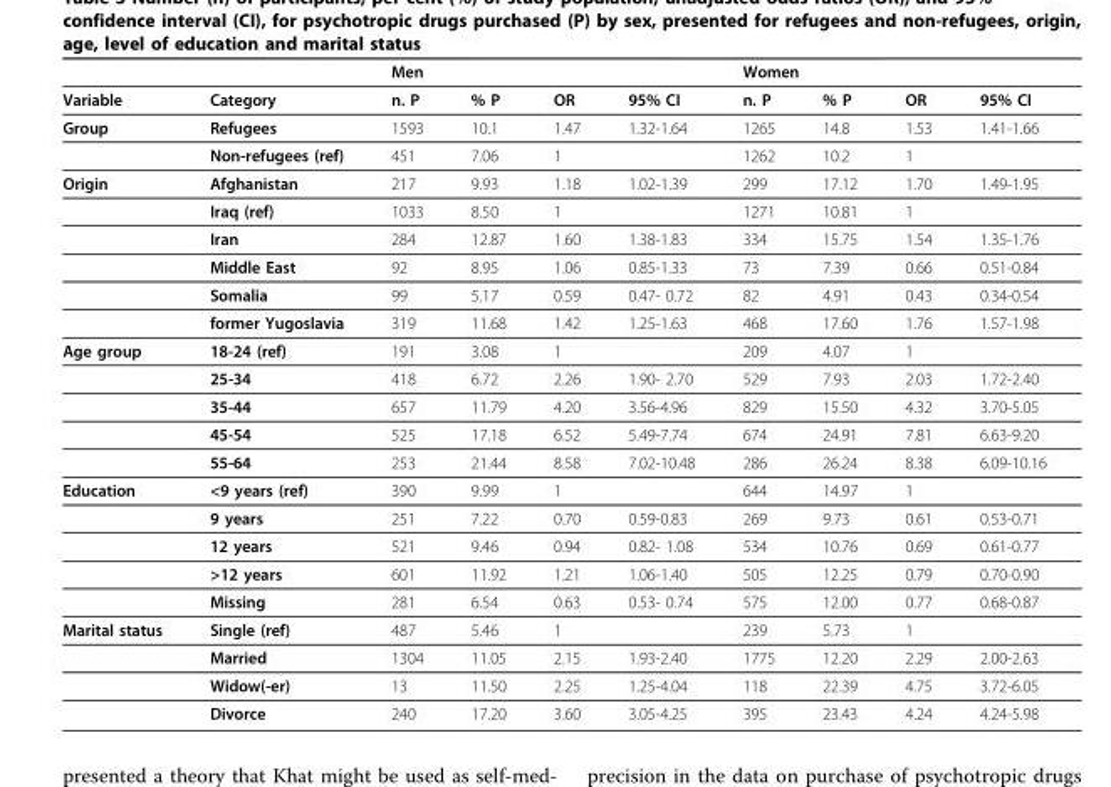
<table><thead><tr><td rowspan="2">Variable</td><td rowspan="2">Category</td><td colspan="4">Men</td><td colspan="4">Women</td></tr><tr><td>n. P</td><td>% P</td><td>OR</td><td>95% CI</td><td>n. P</td><td>% P</td><td>OR</td><td>95% CI</td></tr></thead><tbody><tr><td rowspan="2">Group</td><td>Refugees</td><td>1593</td><td>10.1</td><td>1.47</td><td>1.32-1.64</td><td>1265</td><td>14.8</td><td>1.53</td><td>1.41-1.66</td></tr><tr><td>Non-refugees (ref)</td><td>451</td><td>7.06</td><td>1</td><td></td><td>1262</td><td>10.2</td><td>1</td><td></td></tr><tr><td rowspan="6">Origin</td><td>Afghanistan</td><td>217</td><td>9.93</td><td>1.18</td><td>1.02-1.39</td><td>299</td><td>17.12</td><td>1.70</td><td>1.49-1.95</td></tr><tr><td>Iraq (ref)</td><td>1033</td><td>8.50</td><td>1</td><td></td><td>1271</td><td>10.81</td><td>1</td><td></td></tr><tr><td>Iran</td><td>284</td><td>12.87</td><td>1.60</td><td>1.38-1.83</td><td>334</td><td>15.75</td><td>1.54</td><td>1.35-1.76</td></tr><tr><td>Middle East</td><td>92</td><td>8.95</td><td>1.06</td><td>0.85-1.33</td><td>73</td><td>7.39</td><td>0.66</td><td>0.51-0.84</td></tr><tr><td>Somalia</td><td>99</td><td>5.17</td><td>0.59</td><td>0.47- 0.72</td><td>82</td><td>4.91</td><td>0.43</td><td>0.34-0.54</td></tr><tr><td>former Yugoslavia</td><td>319</td><td>11.68</td><td>1.42</td><td>1.25-1.63</td><td>468</td><td>17.60</td><td>1.76</td><td>1.57-1.98</td></tr><tr><td rowspan="5">Age group</td><td>18-24 (ref)</td><td>191</td><td>3.08</td><td>1</td><td></td><td>209</td><td>4.07</td><td>1</td><td></td></tr><tr><td>25-34</td><td>418</td><td>6.72</td><td>2.26</td><td>1.90- 2.70</td><td>529</td><td>7.93</td><td>2.03</td><td>1.72-2.40</td></tr><tr><td>35-44</td><td>657</td><td>11.79</td><td>4.20</td><td>3.56-4.96</td><td>829</td><td>15.50</td><td>4.32</td><td>3.70-5.05</td></tr><tr><td>45-54</td><td>525</td><td>17.18</td><td>6.52</td><td>5.49-7.74</td><td>674</td><td>24.91</td><td>7.81</td><td>6.63-9.20</td></tr><tr><td>55-64</td><td>253</td><td>21.44</td><td>8.58</td><td>7.02-10.48</td><td>286</td><td>26.24</td><td>8.38</td><td>6.09-10.16</td></tr><tr><td rowspan="5">Education</td><td>&lt;9 years (ref)</td><td>390</td><td>9.99</td><td>1</td><td></td><td>644</td><td>14.97</td><td>1</td><td></td></tr><tr><td>9 years</td><td>251</td><td>7.22</td><td>0.70</td><td>0.59-0.83</td><td>269</td><td>9.73</td><td>0.61</td><td>0.53-0.71</td></tr><tr><td>12 years</td><td>521</td><td>9.46</td><td>0.94</td><td>0.82- 1.08</td><td>534</td><td>10.76</td><td>0.69</td><td>0.61-0.77</td></tr><tr><td>&gt;12 years</td><td>601</td><td>11.92</td><td>1.21</td><td>1.06-1.40</td><td>505</td><td>12.25</td><td>0.79</td><td>0.70-0.90</td></tr><tr><td>Missing</td><td>281</td><td>6.54</td><td>0.63</td><td>0.53- 0.74</td><td>575</td><td>12.00</td><td>0.77</td><td>0.68-0.87</td></tr><tr><td rowspan="4">Marital status</td><td>Single (ref)</td><td>487</td><td>5.46</td><td>1</td><td></td><td>239</td><td>5.73</td><td>1</td><td></td></tr><tr><td>Married</td><td>1304</td><td>11.05</td><td>2.15</td><td>1.93-2.40</td><td>1775</td><td>12.20</td><td>2.29</td><td>2.00-2.63</td></tr><tr><td>Widow(-er)</td><td>13</td><td>11.50</td><td>2.25</td><td>1.25-4.04</td><td>118</td><td>22.39</td><td>4.75</td><td>3.72-6.05</td></tr><tr><td>Divorce</td><td>240</td><td>17.20</td><td>3.60</td><td>3.05-4.25</td><td>395</td><td>23.43</td><td>4.24</td><td>4.24-5.98</td></tr></tbody></table>